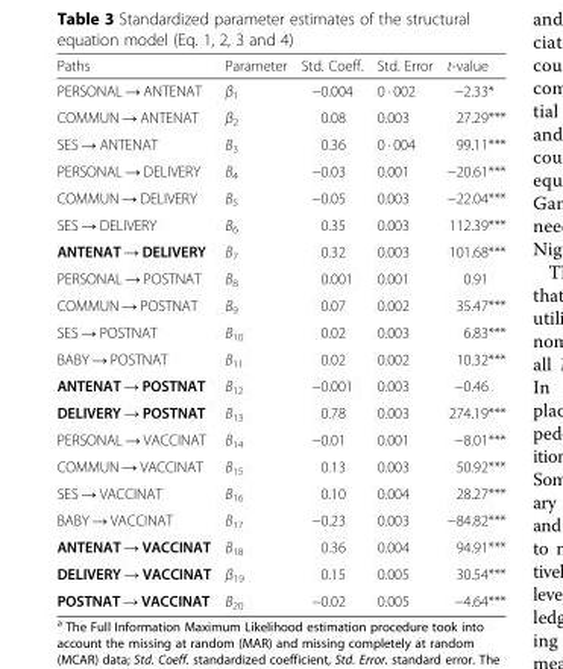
<table><thead><tr><td>Paths</td><td>Parameter</td><td>Std. Coeff.</td><td>Std. Error</td><td>t-value</td></tr></thead><tbody><tr><td>PERSONAL → ANTENAT</td><td>β<sub>1</sub></td><td>−0.004</td><td>0 · 002</td><td>−2.33*</td></tr><tr><td>COMMUN → ANTENAT</td><td>β<sub>2</sub></td><td>0.08</td><td>0.003</td><td>27.29***</td></tr><tr><td>SES → ANTENAT</td><td>Β<sub>3</sub></td><td>0.36</td><td>0 · 004</td><td>99.11***</td></tr><tr><td>PERSONAL → DELIVERY</td><td>Β<sub>4</sub></td><td>−0.03</td><td>0.001</td><td>−20.61***</td></tr><tr><td>COMMUN → DELIVERY</td><td>Β<sub>5</sub></td><td>−0.05</td><td>0.003</td><td>−22.04***</td></tr><tr><td>SES → DELIVERY</td><td>Β<sub>6</sub></td><td>0.35</td><td>0.003</td><td>112.39***</td></tr><tr><td>ANTENAT → DELIVERY</td><td>Β<sub>7</sub></td><td>0.32</td><td>0.003</td><td>101.68***</td></tr><tr><td>PERSONAL → POSTNAT</td><td>Β<sub>8</sub></td><td>0.001</td><td>0.001</td><td>0.91</td></tr><tr><td>COMMUN → POSTNAT</td><td>Β<sub>9</sub></td><td>0.07</td><td>0.002</td><td>35.47***</td></tr><tr><td>SES → POSTNAT</td><td>Β<sub>10</sub></td><td>0.02</td><td>0.003</td><td>6.83***</td></tr><tr><td>BABY → POSTNAT</td><td>Β<sub>11</sub></td><td>0.02</td><td>0.002</td><td>10.32***</td></tr><tr><td>ANTENAT → POSTNAT</td><td>Β<sub>12</sub></td><td>−0.001</td><td>0.003</td><td>−0.46</td></tr><tr><td>DELIVERY → POSTNAT</td><td>Β<sub>13</sub></td><td>0.78</td><td>0.003</td><td>274.19***</td></tr><tr><td>PERSONAL → VACCINAT</td><td>Β<sub>14</sub></td><td>−0.01</td><td>0.001</td><td>−8.01***</td></tr><tr><td>COMMUN → VACCINAT</td><td>Β<sub>15</sub></td><td>0.13</td><td>0.003</td><td>50.92***</td></tr><tr><td>SES → VACCINAT</td><td>Β<sub>16</sub></td><td>0.10</td><td>0.004</td><td>28.27***</td></tr><tr><td>BABY → VACCINAT</td><td>Β<sub>17</sub></td><td>−0.23</td><td>0.003</td><td>−84.82***</td></tr><tr><td>ANTENAT → VACCINAT</td><td>Β<sub>18</sub></td><td>0.36</td><td>0.004</td><td>94.91***</td></tr><tr><td>DELIVERY → VACCINAT</td><td>β<sub>19</sub></td><td>0.15</td><td>0.005</td><td>30.54***</td></tr><tr><td>POSTNAT → VACCINAT</td><td>Β<sub>20</sub></td><td>−0.02</td><td>0.005</td><td>−4.64***</td></tr></tbody></table>